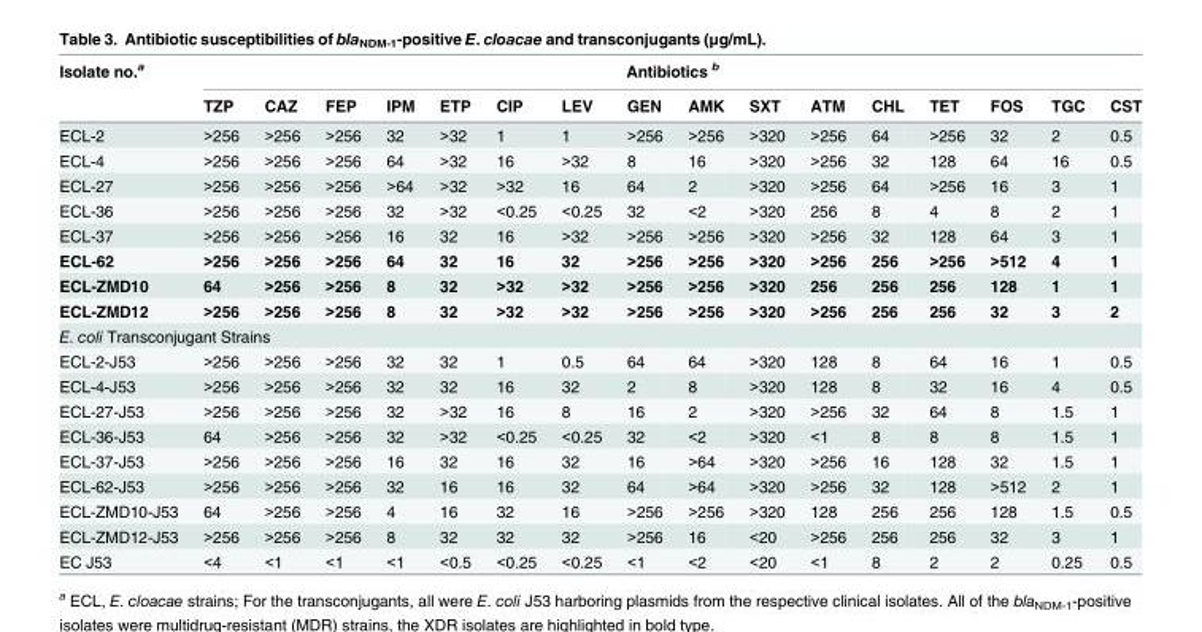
<table><thead><tr><td rowspan="2">Isolate no.<sup>a</sup></td><td colspan="16">Antibiotics <sup>b</sup></td></tr><tr><td>TZP</td><td>CAZ</td><td>FEP</td><td>IPM</td><td>ETP</td><td>CIP</td><td>LEV</td><td>GEN</td><td>AMK</td><td>SXT</td><td>ATM</td><td>CHL</td><td>TET</td><td>FOS</td><td>TGC</td><td>CST</td></tr></thead><tbody><tr><td>ECL-2</td><td>&gt;256</td><td>&gt;256</td><td>&gt;256</td><td>32</td><td>&gt;32</td><td>1</td><td>1</td><td>&gt;256</td><td>&gt;256</td><td>&gt;320</td><td>&gt;256</td><td>64</td><td>&gt;256</td><td>32</td><td>2</td><td>0.5</td></tr><tr><td>ECL-4</td><td>&gt;256</td><td>&gt;256</td><td>&gt;256</td><td>64</td><td>&gt;32</td><td>16</td><td>&gt;32</td><td>8</td><td>16</td><td>&gt;320</td><td>&gt;256</td><td>32</td><td>128</td><td>64</td><td>16</td><td>0.5</td></tr><tr><td>ECL-27</td><td>&gt;256</td><td>&gt;256</td><td>&gt;256</td><td>&gt;64</td><td>&gt;32</td><td>&gt;32</td><td>16</td><td>64</td><td>2</td><td>&gt;320</td><td>&gt;256</td><td>64</td><td>&gt;256</td><td>16</td><td>3</td><td>1</td></tr><tr><td>ECL-36</td><td>&gt;256</td><td>&gt;256</td><td>&gt;256</td><td>32</td><td>&gt;32</td><td>&lt;0.25</td><td>&lt;0.25</td><td>32</td><td>&lt;2</td><td>&gt;320</td><td>256</td><td>8</td><td>4</td><td>8</td><td>2</td><td>1</td></tr><tr><td>ECL-37</td><td>&gt;256</td><td>&gt;256</td><td>&gt;256</td><td>16</td><td>32</td><td>16</td><td>&gt;32</td><td>&gt;256</td><td>&gt;256</td><td>&gt;320</td><td>&gt;256</td><td>32</td><td>128</td><td>64</td><td>3</td><td>1</td></tr><tr><td>ECL-62</td><td>&gt;256</td><td>&gt;256</td><td>&gt;256</td><td>64</td><td>32</td><td>16</td><td>32</td><td>&gt;256</td><td>&gt;256</td><td>&gt;320</td><td>&gt;256</td><td>256</td><td>&gt;256</td><td>&gt;512</td><td>4</td><td>1</td></tr><tr><td>ECL-ZMD10</td><td>64</td><td>&gt;256</td><td>&gt;256</td><td>8</td><td>32</td><td>&gt;32</td><td>&gt;32</td><td>&gt;256</td><td>&gt;256</td><td>&gt;320</td><td>256</td><td>256</td><td>256</td><td>128</td><td>1</td><td>1</td></tr><tr><td>ECL-ZMD12</td><td>&gt;256</td><td>&gt;256</td><td>&gt;256</td><td>8</td><td>32</td><td>&gt;32</td><td>&gt;32</td><td>&gt;256</td><td>&gt;256</td><td>&gt;320</td><td>&gt;256</td><td>256</td><td>256</td><td>32</td><td>3</td><td>2</td></tr><tr><td colspan="17">E. coli Transconjugant Strains</td></tr><tr><td>ECL-2-J53</td><td>&gt;256</td><td>&gt;256</td><td>&gt;256</td><td>32</td><td>32</td><td>1</td><td>0.5</td><td>64</td><td>64</td><td>&gt;320</td><td>128</td><td>8</td><td>64</td><td>16</td><td>1</td><td>0.5</td></tr><tr><td>ECL-4-J53</td><td>&gt;256</td><td>&gt;256</td><td>&gt;256</td><td>32</td><td>32</td><td>16</td><td>32</td><td>2</td><td>8</td><td>&gt;320</td><td>128</td><td>8</td><td>32</td><td>16</td><td>4</td><td>0.5</td></tr><tr><td>ECL-27-J53</td><td>&gt;256</td><td>&gt;256</td><td>&gt;256</td><td>32</td><td>&gt;32</td><td>16</td><td>8</td><td>16</td><td>2</td><td>&gt;320</td><td>&gt;256</td><td>32</td><td>64</td><td>8</td><td>1.5</td><td>1</td></tr><tr><td>ECL-36-J53</td><td>64</td><td>&gt;256</td><td>&gt;256</td><td>32</td><td>&gt;32</td><td>&lt;0.25</td><td>&lt;0.25</td><td>32</td><td>&lt;2</td><td>&gt;320</td><td>&lt;1</td><td>8</td><td>8</td><td>8</td><td>1.5</td><td>1</td></tr><tr><td>ECL-37-J53</td><td>&gt;256</td><td>&gt;256</td><td>&gt;256</td><td>16</td><td>32</td><td>16</td><td>32</td><td>16</td><td>&gt;64</td><td>&gt;320</td><td>&gt;256</td><td>16</td><td>128</td><td>32</td><td>1.5</td><td>1</td></tr><tr><td>ECL-62-J53</td><td>&gt;256</td><td>&gt;256</td><td>&gt;256</td><td>32</td><td>16</td><td>16</td><td>32</td><td>64</td><td>&gt;64</td><td>&gt;320</td><td>&gt;256</td><td>32</td><td>128</td><td>&gt;512</td><td>2</td><td>1</td></tr><tr><td>ECL-ZMD10-J53</td><td>64</td><td>&gt;256</td><td>&gt;256</td><td>4</td><td>16</td><td>32</td><td>16</td><td>&gt;256</td><td>&gt;256</td><td>&gt;320</td><td>128</td><td>256</td><td>256</td><td>128</td><td>1.5</td><td>0.5</td></tr><tr><td>ECL-ZMD12-J53</td><td>&gt;256</td><td>&gt;256</td><td>&gt;256</td><td>8</td><td>32</td><td>32</td><td>32</td><td>&gt;256</td><td>16</td><td>&lt;20</td><td>&gt;256</td><td>256</td><td>256</td><td>32</td><td>3</td><td>1</td></tr><tr><td>EC J53</td><td>&lt;4</td><td>&lt;1</td><td>&lt;1</td><td>&lt;1</td><td>&lt;0.5</td><td>&lt;0.25</td><td>&lt;0.25</td><td>&lt;1</td><td>&lt;2</td><td>&lt;20</td><td>&lt;1</td><td>8</td><td>2</td><td>2</td><td>0.25</td><td>0.5</td></tr></tbody></table>